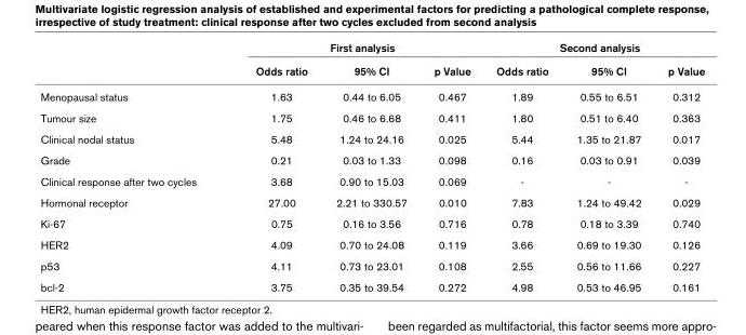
<table><thead><tr><td rowspan="2"></td><td colspan="3">First analysis</td><td colspan="3">Second analysis</td></tr><tr><td>Odds ratio</td><td>95% CI</td><td>p Value</td><td>Odds ratio</td><td>95% CI</td><td>p Value</td></tr></thead><tbody><tr><td>Menopausal status</td><td>1.63</td><td>0.44 to 6.05</td><td>0.467</td><td>1.89</td><td>0.55 to 6.51</td><td>0.312</td></tr><tr><td>Tumour size</td><td>1.75</td><td>0.46 to 6.68</td><td>0.411</td><td>1.80</td><td>0.51 to 6.40</td><td>0.363</td></tr><tr><td>Clinical nodal status</td><td>5.48</td><td>1.24 to 24.16</td><td>0.025</td><td>5.44</td><td>1.35 to 21.87</td><td>0.017</td></tr><tr><td>Grade</td><td>0.21</td><td>0.03 to 1.33</td><td>0.098</td><td>0.16</td><td>0.03 to 0.91</td><td>0.039</td></tr><tr><td>Clinical response after two cycles</td><td>3.68</td><td>0.90 to 15.03</td><td>0.069</td><td>-</td><td>-</td><td>-</td></tr><tr><td>Hormonal receptor</td><td>27.00</td><td>2.21 to 330.57</td><td>0.010</td><td>7.83</td><td>1.24 to 49.42</td><td>0.029</td></tr><tr><td>Ki-67</td><td>0.75</td><td>0.16 to 3.56</td><td>0.716</td><td>0.78</td><td>0.18 to 3.39</td><td>0.740</td></tr><tr><td>HER2</td><td>4.09</td><td>0.70 to 24.08</td><td>0.119</td><td>3.66</td><td>0.69 to 19.30</td><td>0.126</td></tr><tr><td>p53</td><td>4.11</td><td>0.73 to 23.01</td><td>0.108</td><td>2.55</td><td>0.56 to 11.66</td><td>0.227</td></tr><tr><td>bcl-2</td><td>3.75</td><td>0.35 to 39.54</td><td>0.272</td><td>4.98</td><td>0.53 to 46.95</td><td>0.161</td></tr></tbody></table>